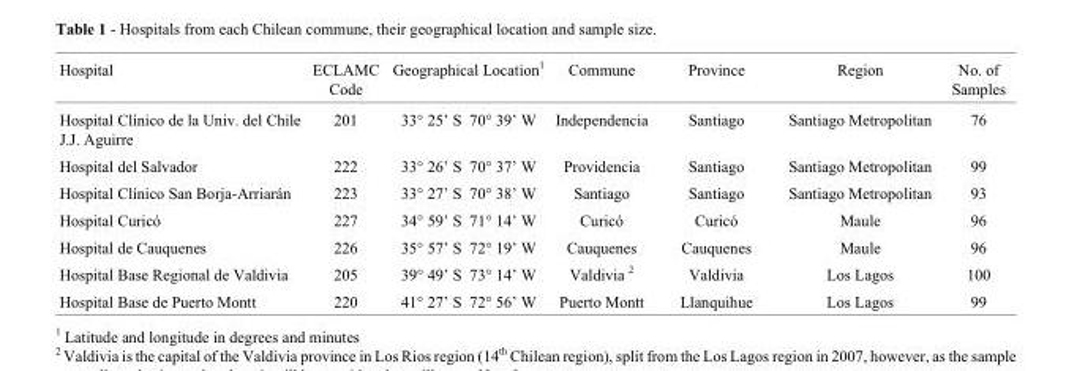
<table><thead><tr><td>Hospital</td><td>ECLAMC Code</td><td>Geographical Location<sup>1</sup></td><td>Commune</td><td>Province</td><td>Region</td><td>No. of Samples</td></tr></thead><tbody><tr><td>Hospital Clínico de la Univ. del Chile J.J. Aguirre</td><td>201</td><td>33° 25’ S 70° 39’ W</td><td>Independencia</td><td>Santiago</td><td>Santiago Metropolitan</td><td>76</td></tr><tr><td>Hospital del Salvador</td><td>222</td><td>33° 26’ S 70° 37’ W</td><td>Providencia</td><td>Santiago</td><td>Santiago Metropolitan</td><td>99</td></tr><tr><td>Hospital Clínico San Borja-Arriarán</td><td>223</td><td>33° 27’ S 70° 38’ W</td><td>Santiago</td><td>Santiago</td><td>Santiago Metropolitan</td><td>93</td></tr><tr><td>Hospital Curicó</td><td>227</td><td>34° 59’ S 71° 14’ W</td><td>Curicó</td><td>Curicó</td><td>Maule</td><td>96</td></tr><tr><td>Hospital de Cauquenes</td><td>226</td><td>35° 57’ S 72° 19’ W</td><td>Cauquenes</td><td>Cauquenes</td><td>Maule</td><td>96</td></tr><tr><td>Hospital Base Regional de Valdivia</td><td>205</td><td>39° 49’ S 73° 14’ W</td><td>Valdivia 2</td><td>Valdivia</td><td>Los Lagos</td><td>100</td></tr><tr><td>Hospital Base de Puerto Montt</td><td>220</td><td>41° 27’ S 72° 56’ W</td><td>Puerto Montt</td><td>Llanquihue</td><td>Los Lagos</td><td>99</td></tr></tbody></table>